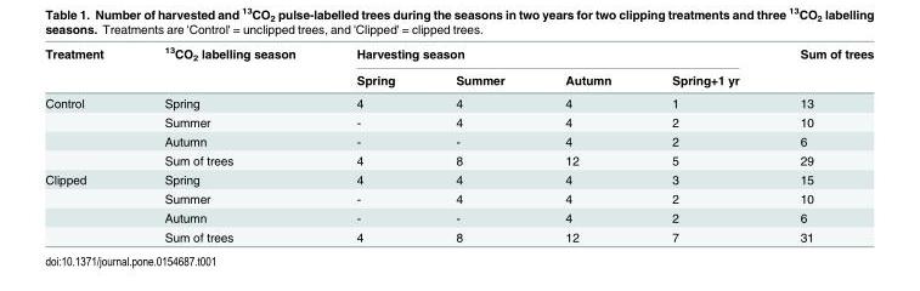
<table><thead><tr><td rowspan="2">Treatment</td><td rowspan="2"><sup>13</sup>CO<sub>2</sub> labelling season</td><td colspan="4">Harvesting season</td><td rowspan="2">Sum of trees</td></tr><tr><td>Spring</td><td>Summer</td><td>Autumn</td><td>Spring+1 yr</td></tr></thead><tbody><tr><td rowspan="4">Control</td><td>Spring</td><td>4</td><td>4</td><td>4</td><td>1</td><td>13</td></tr><tr><td>Summer</td><td>-</td><td>4</td><td>4</td><td>2</td><td>10</td></tr><tr><td>Autumn</td><td>-</td><td>-</td><td>4</td><td>2</td><td>6</td></tr><tr><td>Sum of trees</td><td>4</td><td>8</td><td>12</td><td>5</td><td>29</td></tr><tr><td rowspan="4">Clipped</td><td>Spring</td><td>4</td><td>4</td><td>4</td><td>3</td><td>15</td></tr><tr><td>Summer</td><td>-</td><td>4</td><td>4</td><td>2</td><td>10</td></tr><tr><td>Autumn</td><td>-</td><td>-</td><td>4</td><td>2</td><td>6</td></tr><tr><td>Sum of trees</td><td>4</td><td>8</td><td>12</td><td>7</td><td>31</td></tr></tbody></table>